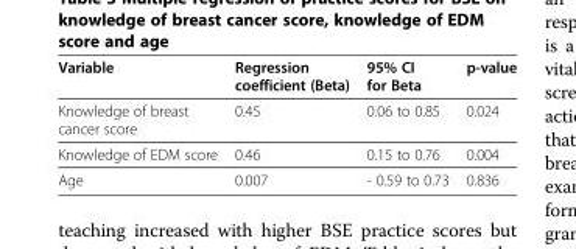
<table><thead><tr><td>Variable</td><td>Regression coefficient (Beta)</td><td>95% CI for Beta</td><td>p-value</td></tr></thead><tbody><tr><td>Knowledge of breast cancer score</td><td>0.45</td><td>0.06 to 0.85</td><td>0.024</td></tr><tr><td>Knowledge of EDM score</td><td>0.46</td><td>0.15 to 0.76</td><td>0.004</td></tr><tr><td>Age</td><td>0.007</td><td>- 0.59 to 0.73</td><td>0.836</td></tr></tbody></table>